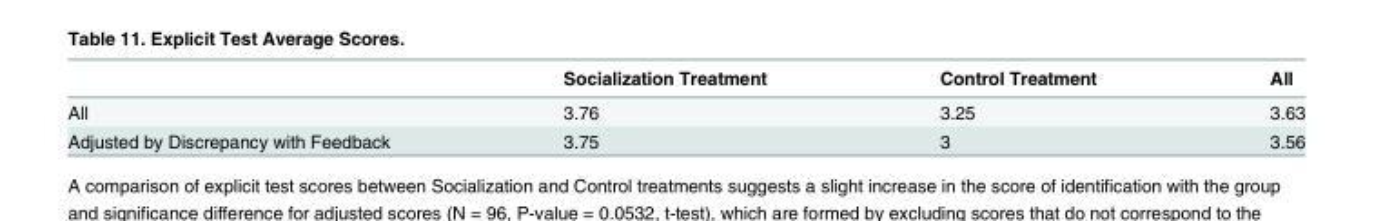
<table><thead><tr><td></td><td>Socialization Treatment</td><td>Control Treatment</td><td>All</td></tr></thead><tbody><tr><td>All</td><td>3.76</td><td>3.25</td><td>3.63</td></tr><tr><td>Adjusted by Discrepancy with Feedback</td><td>3.75</td><td>3</td><td>3.56</td></tr></tbody></table>